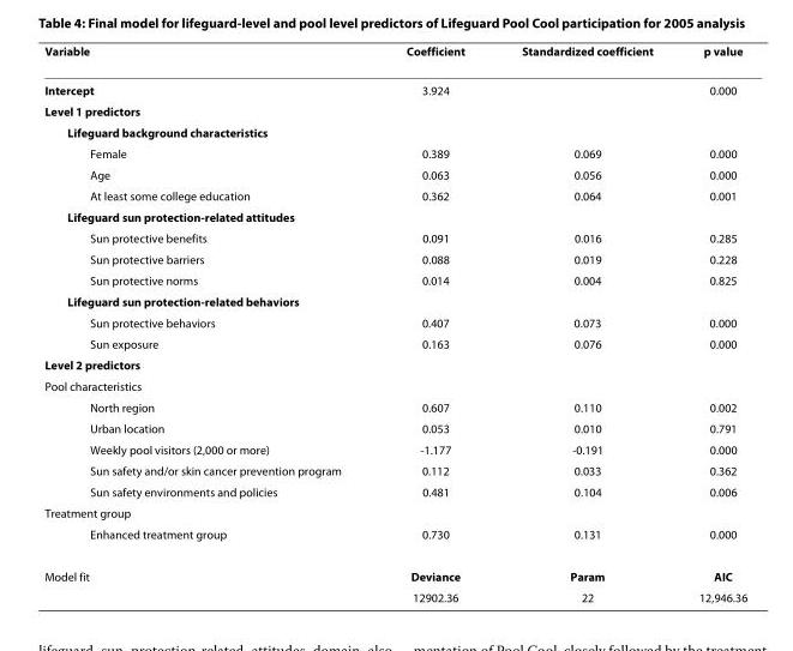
<table><thead><tr><td>Variable</td><td>Coefficient</td><td>Standardized coefficient</td><td>p value</td></tr></thead><tbody><tr><td>Intercept</td><td>3.924</td><td></td><td>0.000</td></tr><tr><td colspan="4">Level 1 predictors</td></tr><tr><td colspan="4">Lifeguard background characteristics</td></tr><tr><td>Female</td><td>0.389</td><td>0.069</td><td>0.000</td></tr><tr><td>Age</td><td>0.063</td><td>0.056</td><td>0.000</td></tr><tr><td>At least some college education</td><td>0.362</td><td>0.064</td><td>0.001</td></tr><tr><td colspan="4">Lifeguard sun protection-related attitudes</td></tr><tr><td>Sun protective benefits</td><td>0.091</td><td>0.016</td><td>0.285</td></tr><tr><td>Sun protective barriers</td><td>0.088</td><td>0.019</td><td>0.228</td></tr><tr><td>Sun protective norms</td><td>0.014</td><td>0.004</td><td>0.825</td></tr><tr><td colspan="4">Lifeguard sun protection-related behaviors</td></tr><tr><td>Sun protective behaviors</td><td>0.407</td><td>0.073</td><td>0.000</td></tr><tr><td>Sun exposure</td><td>0.163</td><td>0.076</td><td>0.000</td></tr><tr><td colspan="4">Level 2 predictors</td></tr><tr><td colspan="4">Pool characteristics</td></tr><tr><td>North region</td><td>0.607</td><td>0.110</td><td>0.002</td></tr><tr><td>Urban location</td><td>0.053</td><td>0.010</td><td>0.791</td></tr><tr><td>Weekly pool visitors (2,000 or more)</td><td>-1.177</td><td>-0.191</td><td>0.000</td></tr><tr><td>Sun safety and/or skin cancer prevention program</td><td>0.112</td><td>0.033</td><td>0.362</td></tr><tr><td>Sun safety environments and policies</td><td>0.481</td><td>0.104</td><td>0.006</td></tr><tr><td colspan="4">Treatment group</td></tr><tr><td>Enhanced treatment group</td><td>0.730</td><td>0.131</td><td>0.000</td></tr><tr><td rowspan="2">Model fit</td><td>Deviance</td><td>Param</td><td>AIC</td></tr><tr><td>12902.36</td><td>22</td><td>12,946.36</td></tr></tbody></table>